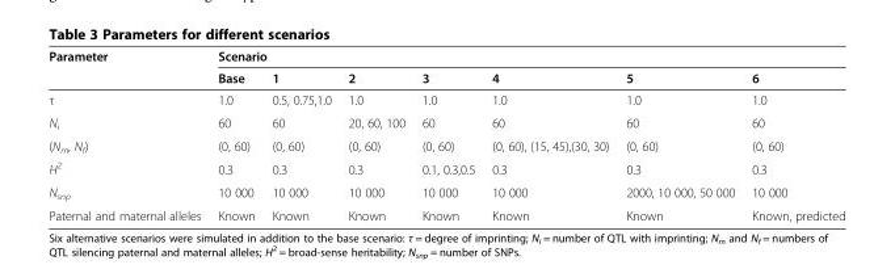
<table><thead><tr><td rowspan="2">Parameter</td><td colspan="7">Scenario</td></tr><tr><td>Base</td><td>1</td><td>2</td><td>3</td><td>4</td><td>5</td><td>6</td></tr></thead><tbody><tr><td>τ</td><td>1.0</td><td>0.5, 0.75,1.0</td><td>1.0</td><td>1.0</td><td>1.0</td><td>1.0</td><td>1.0</td></tr><tr><td>N<sub>i</sub></td><td>60</td><td>60</td><td>20, 60, 100</td><td>60</td><td>60</td><td>60</td><td>60</td></tr><tr><td>(N<sub>m</sub>, N<sub>f</sub>)</td><td>(0, 60)</td><td>(0, 60)</td><td>(0, 60)</td><td>(0, 60)</td><td>(0, 60), (15, 45),(30, 30)</td><td>(0, 60)</td><td>(0, 60)</td></tr><tr><td>H<sup>2</sup></td><td>0.3</td><td>0.3</td><td>0.3</td><td>0.1, 0.3,0.5</td><td>0.3</td><td>0.3</td><td>0.3</td></tr><tr><td>N<sub>snp</sub></td><td>10 000</td><td>10 000</td><td>10 000</td><td>10 000</td><td>10 000</td><td>2000, 10 000, 50 000</td><td>10 000</td></tr><tr><td>Paternal and maternal alleles</td><td>Known</td><td>Known</td><td>Known</td><td>Known</td><td>Known</td><td>Known</td><td>Known, predicted</td></tr></tbody></table>